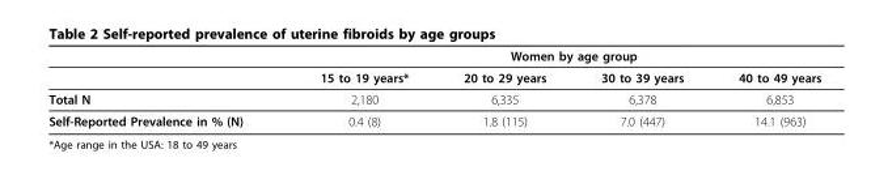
<table><thead><tr><td rowspan="2"></td><td rowspan="2">15 to 19 years*</td><td colspan="2">Women by age group</td><td rowspan="2">40 to 49 years</td></tr><tr><td>20 to 29 years</td><td>30 to 39 years</td></tr></thead><tbody><tr><td>Total N</td><td>2,180</td><td>6,335</td><td>6,378</td><td>6,853</td></tr><tr><td>Self-Reported Prevalence in % (N)</td><td>0.4 (8)</td><td>1.8 (115)</td><td>7.0 (447)</td><td>14.1 (963)</td></tr></tbody></table>